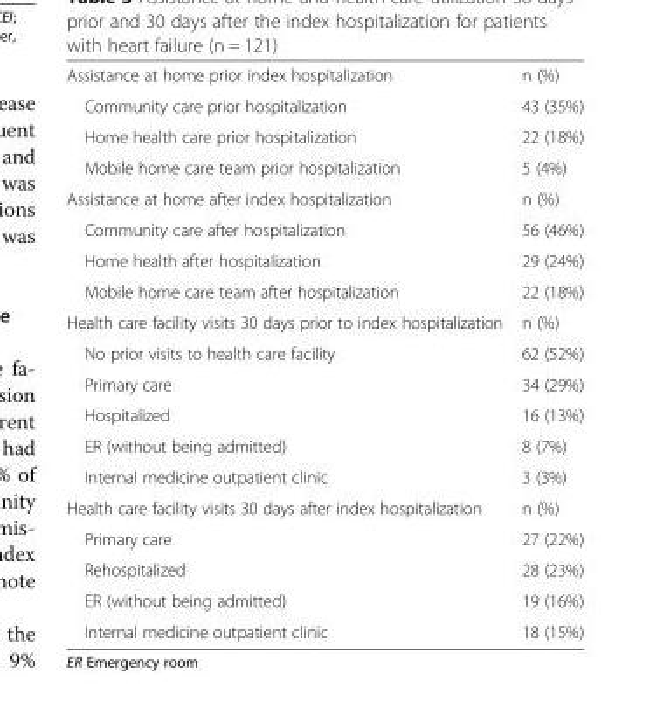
<table><tbody><tr><td>Assistance at home prior index hospitalization</td><td>n (%)</td></tr><tr><td>Community care prior hospitalization</td><td>43 (35%)</td></tr><tr><td>Home health care prior hospitalization</td><td>22 (18%)</td></tr><tr><td>Mobile home care team prior hospitalization</td><td>5 (4%)</td></tr><tr><td>Assistance at home after index hospitalization</td><td>n (%)</td></tr><tr><td>Community care after hospitalization</td><td>56 (46%)</td></tr><tr><td>Home health after hospitalization</td><td>29 (24%)</td></tr><tr><td>Mobile home care team after hospitalization</td><td>22 (18%)</td></tr><tr><td>Health care facility visits 30 days prior to index hospitalization</td><td>n (%)</td></tr><tr><td>No prior visits to health care facility</td><td>62 (52%)</td></tr><tr><td>Primary care</td><td>34 (29%)</td></tr><tr><td>Hospitalized</td><td>16 (13%)</td></tr><tr><td>ER (without being admitted)</td><td>8 (7%)</td></tr><tr><td>Internal medicine outpatient clinic</td><td>3 (3%)</td></tr><tr><td>Health care facility visits 30 days after index hospitalization</td><td>n (%)</td></tr><tr><td>Primary care</td><td>27 (22%)</td></tr><tr><td>Rehospitalized</td><td>28 (23%)</td></tr><tr><td>ER (without being admitted)</td><td>19 (16%)</td></tr><tr><td>Internal medicine outpatient clinic</td><td>18 (15%)</td></tr></tbody></table>